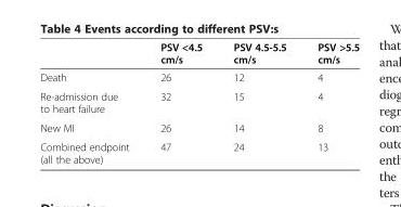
<table><thead><tr><td></td><td>PSV &lt;4.5 cm/s</td><td>PSV 4.5-5.5 cm/s</td><td>PSV &gt;5.5 cm/s</td></tr></thead><tbody><tr><td>Death</td><td>26</td><td>12</td><td>4</td></tr><tr><td>Re-admission due to heart failure</td><td>32</td><td>15</td><td>4</td></tr><tr><td>New MI</td><td>26</td><td>14</td><td>8</td></tr><tr><td>Combined endpoint (all the above)</td><td>47</td><td>24</td><td>13</td></tr></tbody></table>